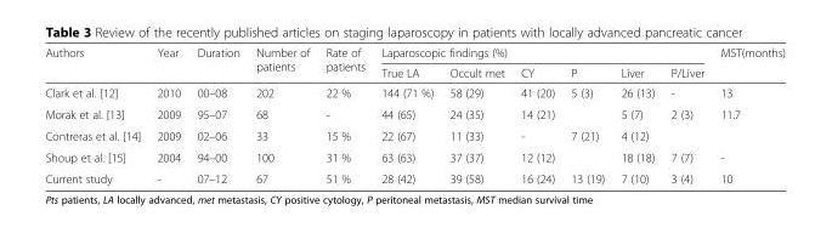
<table><thead><tr><td rowspan="2">Authors</td><td rowspan="2">Year</td><td rowspan="2">Duration</td><td rowspan="2">Number of patients</td><td rowspan="2">Rate of patients</td><td colspan="6">Laparoscopic findings (%)</td><td rowspan="2">MST(months)</td></tr><tr><td>True LA</td><td>Occult met</td><td>CY</td><td>P</td><td>Liver</td><td>P/Liver</td></tr></thead><tbody><tr><td>Clark et al. [12]</td><td>2010</td><td>00–08</td><td>202</td><td>22 %</td><td>144 (71 %)</td><td>58 (29)</td><td>41 (20)</td><td>5 (3)</td><td>26 (13)</td><td>-</td><td>13</td></tr><tr><td>Morak et al. [13]</td><td>2009</td><td>95–07</td><td>68</td><td>-</td><td>44 (65)</td><td>24 (35)</td><td colspan="2">14 (21)</td><td>5 (7)</td><td>2 (3)</td><td>11.7</td></tr><tr><td>Contreras et al. [14]</td><td>2009</td><td>02–06</td><td>33</td><td>15 %</td><td>22 (67)</td><td>11 (33)</td><td>-</td><td>7 (21)</td><td>4 (12)</td><td></td><td></td></tr><tr><td>Shoup et al. [15]</td><td>2004</td><td>94–00</td><td>100</td><td>31 %</td><td>63 (63)</td><td>37 (37)</td><td colspan="2">12 (12)</td><td>18 (18)</td><td>7 (7)</td><td>-</td></tr><tr><td>Current study</td><td>-</td><td>07–12</td><td>67</td><td>51 %</td><td>28 (42)</td><td>39 (58)</td><td>16 (24)</td><td>13 (19)</td><td>7 (10)</td><td>3 (4)</td><td>10</td></tr></tbody></table>